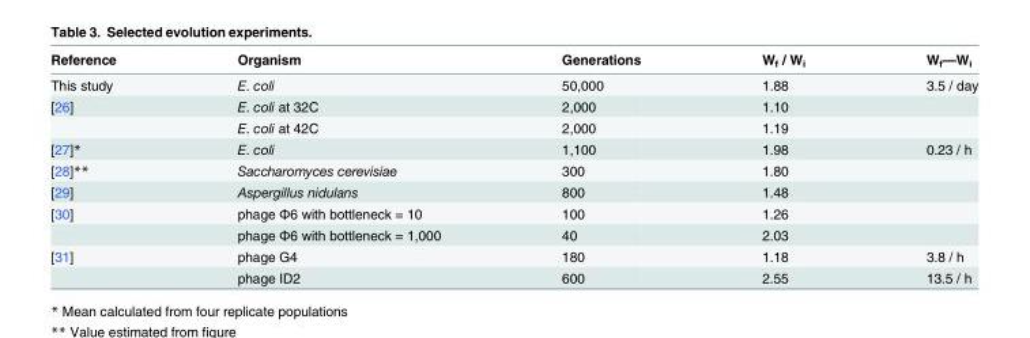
<table><thead><tr><td>Reference</td><td>Organism</td><td>Generations</td><td>W<sub>f</sub> / W<sub>i</sub></td><td>W<sub>f</sub>—W<sub>i</sub></td></tr></thead><tbody><tr><td>This study</td><td>E. coli</td><td>50,000</td><td>1.88</td><td>3.5 / day</td></tr><tr><td rowspan="2">[26]</td><td>E. coli at 32C</td><td>2,000</td><td>1.10</td><td></td></tr><tr><td>E. coli at 42C</td><td>2,000</td><td>1.19</td><td></td></tr><tr><td>[27]*</td><td>E. coli</td><td>1,100</td><td>1.98</td><td>0.23 / h</td></tr><tr><td>[28]**</td><td>Saccharomyces cerevisiae</td><td>300</td><td>1.80</td><td></td></tr><tr><td>[29]</td><td>Aspergillus nidulans</td><td>800</td><td>1.48</td><td></td></tr><tr><td rowspan="2">[30]</td><td>phage Φ6 with bottleneck = 10</td><td>100</td><td>1.26</td><td></td></tr><tr><td>phage Φ6 with bottleneck = 1,000</td><td>40</td><td>2.03</td><td></td></tr><tr><td rowspan="2">[31]</td><td>phage G4</td><td>180</td><td>1.18</td><td>3.8 / h</td></tr><tr><td>phage ID2</td><td>600</td><td>2.55</td><td>13.5 / h</td></tr></tbody></table>